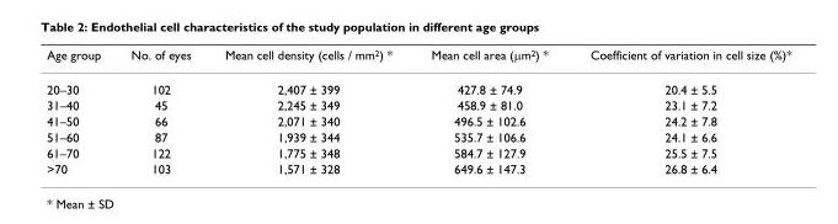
<table><thead><tr><td>Age group</td><td>No. of eyes</td><td>Mean cell density (cells / mm<sup>2</sup>) *</td><td>Mean cell area (µm<sup>2</sup>) *</td><td>Coefficient of variation in cell size (%)*</td></tr></thead><tbody><tr><td>20–30</td><td>102</td><td>2,407 ± 399</td><td>427.8 ± 74.9</td><td>20.4 ± 5.5</td></tr><tr><td>31–40</td><td>45</td><td>2,245 ± 349</td><td>458.9 ± 81.0</td><td>23.1 ± 7.2</td></tr><tr><td>41–50</td><td>66</td><td>2,071 ± 340</td><td>496.5 ± 102.6</td><td>24.2 ± 7.8</td></tr><tr><td>51–60</td><td>87</td><td>1,939 ± 344</td><td>535.7 ± 106.6</td><td>24.1 ± 6.6</td></tr><tr><td>61–70</td><td>122</td><td>1,775 ± 348</td><td>584.7 ± 127.9</td><td>25.5 ± 7.5</td></tr><tr><td>&gt;70</td><td>103</td><td>1,571 ± 328</td><td>649.6 ± 147.3</td><td>26.8 ± 6.4</td></tr></tbody></table>